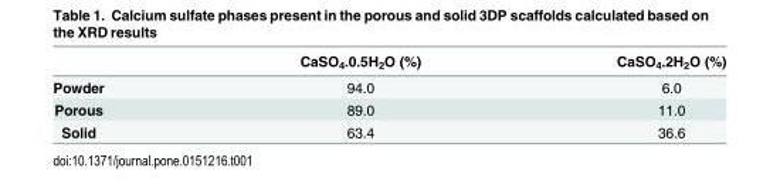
<table><thead><tr><td></td><td>CaSO<sub>4</sub>.0.5H<sub>2</sub>O (%)</td><td>CaSO<sub>4</sub>.2H<sub>2</sub>O (%)</td></tr></thead><tbody><tr><td>Powder</td><td>94.0</td><td>6.0</td></tr><tr><td>Porous</td><td>89.0</td><td>11.0</td></tr><tr><td>Solid</td><td>63.4</td><td>36.6</td></tr></tbody></table>